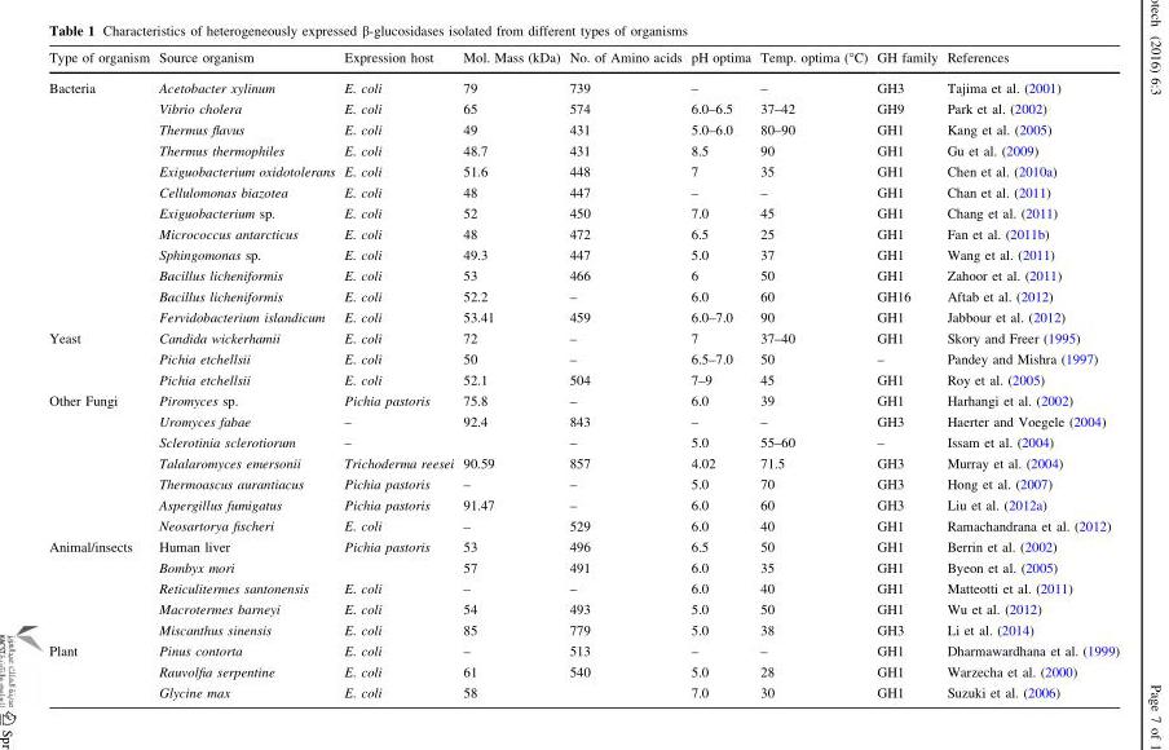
<table><thead><tr><td>Type of organism</td><td>Source organism</td><td>Expression host</td><td>Mol. Mass (kDa)</td><td>No. of Amino acids</td><td>pH optima</td><td>Temp. optima (°C)</td><td>GH family</td><td>References</td></tr></thead><tbody><tr><td rowspan="12">Bacteria</td><td>Acetobacter xylinum</td><td>E. coli</td><td>79</td><td>739</td><td>–</td><td>–</td><td>GH3</td><td>Tajima et al. (2001)</td></tr><tr><td>Vibrio cholera</td><td>E. coli</td><td>65</td><td>574</td><td>6.0–6.5</td><td>37–42</td><td>GH9</td><td>Park et al. (2002)</td></tr><tr><td>Thermus flavus</td><td>E. coli</td><td>49</td><td>431</td><td>5.0–6.0</td><td>80–90</td><td>GH1</td><td>Kang et al. (2005)</td></tr><tr><td>Thermus thermophiles</td><td>E. coli</td><td>48.7</td><td>431</td><td>8.5</td><td>90</td><td>GH1</td><td>Gu et al. (2009)</td></tr><tr><td>Exiguobacterium oxidotolerans</td><td>E. coli</td><td>51.6</td><td>448</td><td>7</td><td>35</td><td>GH1</td><td>Chen et al. (2010a)</td></tr><tr><td>Cellulomonas biazotea</td><td>E. coli</td><td>48</td><td>447</td><td>–</td><td>–</td><td>GH1</td><td>Chan et al. (2011)</td></tr><tr><td>Exiguobacterium sp.</td><td>E. coli</td><td>52</td><td>450</td><td>7.0</td><td>45</td><td>GH1</td><td>Chang et al. (2011)</td></tr><tr><td>Micrococcus antarcticus</td><td>E. coli</td><td>48</td><td>472</td><td>6.5</td><td>25</td><td>GH1</td><td>Fan et al. (2011b)</td></tr><tr><td>Sphingomonas sp.</td><td>E. coli</td><td>49.3</td><td>447</td><td>5.0</td><td>37</td><td>GH1</td><td>Wang et al. (2011)</td></tr><tr><td>Bacillus licheniformis</td><td>E. coli</td><td>53</td><td>466</td><td>6</td><td>50</td><td>GH1</td><td>Zahoor et al. (2011)</td></tr><tr><td>Bacillus licheniformis</td><td>E. coli</td><td>52.2</td><td>–</td><td>6.0</td><td>60</td><td>GH16</td><td>Aftab et al. (2012)</td></tr><tr><td>Fervidobacterium islandicum</td><td>E. coli</td><td>53.41</td><td>459</td><td>6.0–7.0</td><td>90</td><td>GH1</td><td>Jabbour et al. (2012)</td></tr><tr><td rowspan="3">Yeast</td><td>Candida wickerhamii</td><td>E. coli</td><td>72</td><td>–</td><td>7</td><td>37–40</td><td>GH1</td><td>Skory and Freer (1995)</td></tr><tr><td>Pichia etchellsii</td><td>E. coli</td><td>50</td><td>–</td><td>6.5–7.0</td><td>50</td><td>–</td><td>Pandey and Mishra (1997)</td></tr><tr><td>Pichia etchellsii</td><td>E. coli</td><td>52.1</td><td>504</td><td>7–9</td><td>45</td><td>GH1</td><td>Roy et al. (2005)</td></tr><tr><td rowspan="7">Other Fungi</td><td>Piromyces sp.</td><td>Pichia pastoris</td><td>75.8</td><td>–</td><td>6.0</td><td>39</td><td>GH1</td><td>Harhangi et al. (2002)</td></tr><tr><td>Uromyces fabae</td><td>–</td><td>92.4</td><td>843</td><td>–</td><td>–</td><td>GH3</td><td>Haerter and Voegele (2004)</td></tr><tr><td>Sclerotinia sclerotiorum</td><td>–</td><td></td><td>–</td><td>5.0</td><td>55–60</td><td>–</td><td>Issam et al. (2004)</td></tr><tr><td>Talalaromyces emersonii</td><td>Trichoderma reesei</td><td>90.59</td><td>857</td><td>4.02</td><td>71.5</td><td>GH3</td><td>Murray et al. (2004)</td></tr><tr><td>Thermoascus aurantiacus</td><td>Pichia pastoris</td><td>–</td><td>–</td><td>5.0</td><td>70</td><td>GH3</td><td>Hong et al. (2007)</td></tr><tr><td>Aspergillus fumigatus</td><td>Pichia pastoris</td><td>91.47</td><td>–</td><td>6.0</td><td>60</td><td>GH3</td><td>Liu et al. (2012a)</td></tr><tr><td>Neosartorya fischeri</td><td>E. coli</td><td>–</td><td>529</td><td>6.0</td><td>40</td><td>GH1</td><td>Ramachandrana et al. (2012)</td></tr><tr><td rowspan="5">Animal/insects</td><td>Human liver</td><td>Pichia pastoris</td><td>53</td><td>496</td><td>6.5</td><td>50</td><td>GH1</td><td>Berrin et al. (2002)</td></tr><tr><td>Bombyx mori</td><td></td><td>57</td><td>491</td><td>6.0</td><td>35</td><td>GH1</td><td>Byeon et al. (2005)</td></tr><tr><td>Reticulitermes santonensis</td><td>E. coli</td><td>–</td><td>–</td><td>6.0</td><td>40</td><td>GH1</td><td>Matteotti et al. (2011)</td></tr><tr><td>Macrotermes barneyi</td><td>E. coli</td><td>54</td><td>493</td><td>5.0</td><td>50</td><td>GH1</td><td>Wu et al. (2012)</td></tr><tr><td>Miscanthus sinensis</td><td>E. coli</td><td>85</td><td>779</td><td>5.0</td><td>38</td><td>GH3</td><td>Li et al. (2014)</td></tr><tr><td rowspan="3">Plant</td><td>Pinus contorta</td><td>E. coli</td><td>–</td><td>513</td><td>–</td><td>–</td><td>GH1</td><td>Dharmawardhana et al. (1999)</td></tr><tr><td>Rauvolfia serpentine</td><td>E. coli</td><td>61</td><td>540</td><td>5.0</td><td>28</td><td>GH1</td><td>Warzecha et al. (2000)</td></tr><tr><td>Glycine max</td><td>E. coli</td><td>58</td><td></td><td>7.0</td><td>30</td><td>GH1</td><td>Suzuki et al. (2006)</td></tr></tbody></table>